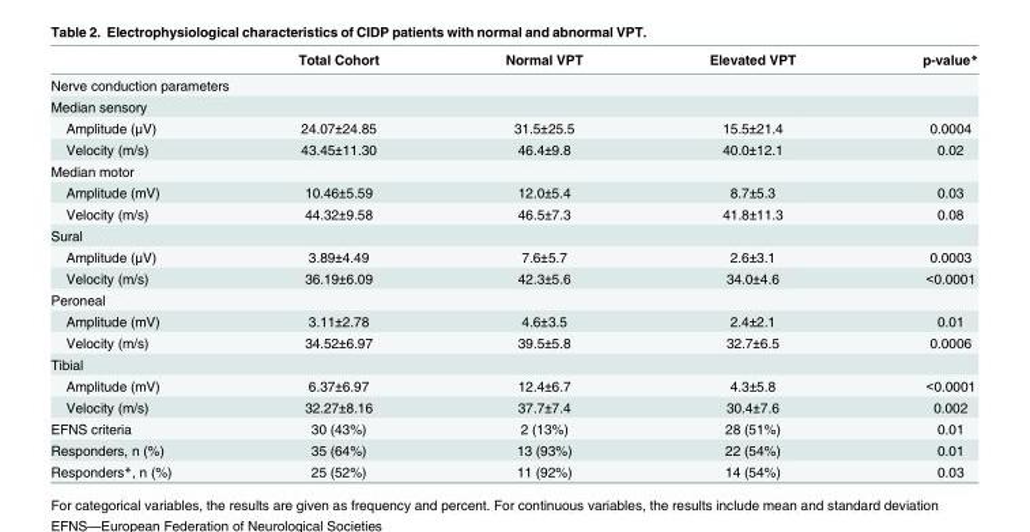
<table><thead><tr><td></td><td>Total Cohort</td><td>Normal VPT</td><td>Elevated VPT</td><td>p-value*</td></tr></thead><tbody><tr><td colspan="5">Nerve conduction parameters</td></tr><tr><td colspan="5">Median sensory</td></tr><tr><td>Amplitude (μV)</td><td>24.07±24.85</td><td>31.5±25.5</td><td>15.5±21.4</td><td>0.0004</td></tr><tr><td>Velocity (m/s)</td><td>43.45±11.30</td><td>46.4±9.8</td><td>40.0±12.1</td><td>0.02</td></tr><tr><td colspan="5">Median motor</td></tr><tr><td>Amplitude (mV)</td><td>10.46±5.59</td><td>12.0±5.4</td><td>8.7±5.3</td><td>0.03</td></tr><tr><td>Velocity (m/s)</td><td>44.32±9.58</td><td>46.5±7.3</td><td>41.8±11.3</td><td>0.08</td></tr><tr><td colspan="5">Sural</td></tr><tr><td>Amplitude (μV)</td><td>3.89±4.49</td><td>7.6±5.7</td><td>2.6±3.1</td><td>0.0003</td></tr><tr><td>Velocity (m/s)</td><td>36.19±6.09</td><td>42.3±5.6</td><td>34.0±4.6</td><td>&lt;0.0001</td></tr><tr><td colspan="5">Peroneal</td></tr><tr><td>Amplitude (mV)</td><td>3.11±2.78</td><td>4.6±3.5</td><td>2.4±2.1</td><td>0.01</td></tr><tr><td>Velocity (m/s)</td><td>34.52±6.97</td><td>39.5±5.8</td><td>32.7±6.5</td><td>0.0006</td></tr><tr><td colspan="5">Tibial</td></tr><tr><td>Amplitude (mV)</td><td>6.37±6.97</td><td>12.4±6.7</td><td>4.3±5.8</td><td>&lt;0.0001</td></tr><tr><td>Velocity (m/s)</td><td>32.27±8.16</td><td>37.7±7.4</td><td>30.4±7.6</td><td>0.002</td></tr><tr><td>EFNS criteria</td><td>30 (43%)</td><td>2 (13%)</td><td>28 (51%)</td><td>0.01</td></tr><tr><td>Responders, n (%)</td><td>35 (64%)</td><td>13 (93%)</td><td>22 (54%)</td><td>0.01</td></tr><tr><td>Responders*, n (%)</td><td>25 (52%)</td><td>11 (92%)</td><td>14 (54%)</td><td>0.03</td></tr></tbody></table>